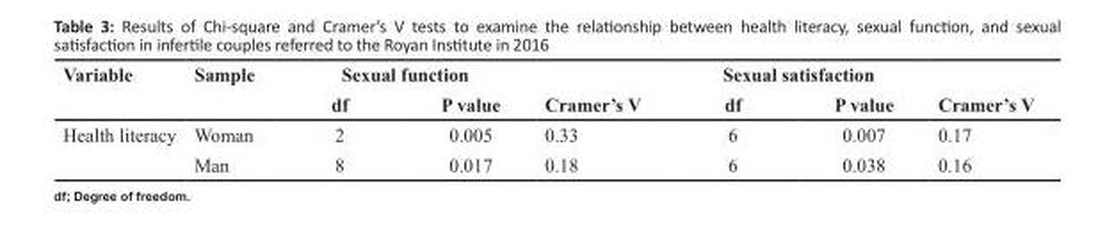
<table><thead><tr><td rowspan="2">Variable</td><td rowspan="2">Sample</td><td colspan="2">Sexual function</td><td rowspan="2">Cramer’s V</td><td colspan="2">Sexual satisfaction</td><td rowspan="2">Cramer’s V</td></tr><tr><td>df</td><td>P value</td><td>df</td><td>P value</td></tr></thead><tbody><tr><td rowspan="2">Health literacy</td><td>Woman</td><td>2</td><td>0.005</td><td>0.33</td><td>6</td><td>0.007</td><td>0.17</td></tr><tr><td>Man</td><td>8</td><td>0.017</td><td>0.18</td><td>6</td><td>0.038</td><td>0.16</td></tr></tbody></table>